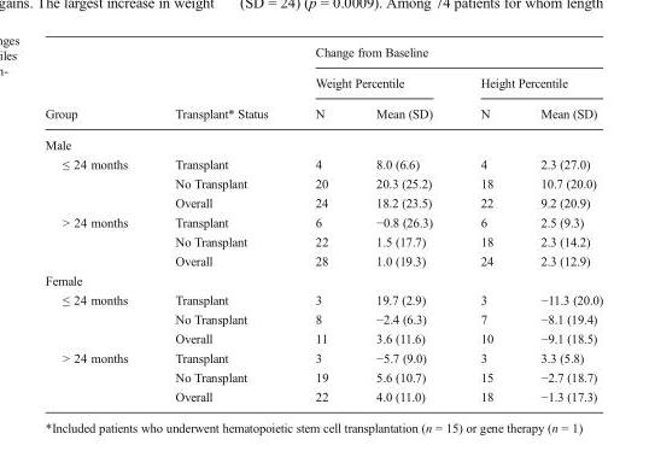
<table><thead><tr><td rowspan="3">Group</td><td rowspan="3">Transplant* Status</td><td colspan="4">Change from Baseline</td></tr><tr><td colspan="2">Weight Percentile</td><td colspan="2">Height Percentile</td></tr><tr><td>N</td><td>Mean (SD)</td><td>N</td><td>Mean (SD)</td></tr></thead><tbody><tr><td colspan="6">Male</td></tr><tr><td rowspan="3">≤ 24 months</td><td>Transplant</td><td>4</td><td>8.0 (6.6)</td><td>4</td><td>2.3 (27.0)</td></tr><tr><td>No Transplant</td><td>20</td><td>20.3 (25.2)</td><td>18</td><td>10.7 (20.0)</td></tr><tr><td>Overall</td><td>24</td><td>18.2 (23.5)</td><td>22</td><td>9.2 (20.9)</td></tr><tr><td rowspan="3">&gt; 24 months</td><td>Transplant</td><td>6</td><td>−0.8 (26.3)</td><td>6</td><td>2.5 (9.3)</td></tr><tr><td>No Transplant</td><td>22</td><td>1.5 (17.7)</td><td>18</td><td>2.3 (14.2)</td></tr><tr><td>Overall</td><td>28</td><td>1.0 (19.3)</td><td>24</td><td>2.3 (12.9)</td></tr><tr><td colspan="6">Female</td></tr><tr><td rowspan="3">≤ 24 months</td><td>Transplant</td><td>3</td><td>19.7 (2.9)</td><td>3</td><td>−11.3 (20.0)</td></tr><tr><td>No Transplant</td><td>8</td><td>−2.4 (6.3)</td><td>7</td><td>−8.1 (19.4)</td></tr><tr><td>Overall</td><td>11</td><td>3.6 (11.6)</td><td>10</td><td>−9.1 (18.5)</td></tr><tr><td rowspan="3">&gt; 24 months</td><td>Transplant</td><td>3</td><td>−5.7 (9.0)</td><td>3</td><td>3.3 (5.8)</td></tr><tr><td>No Transplant</td><td>19</td><td>5.6 (10.7)</td><td>15</td><td>−2.7 (18.7)</td></tr><tr><td>Overall</td><td>22</td><td>4.0 (11.0)</td><td>18</td><td>−1.3 (17.3)</td></tr></tbody></table>